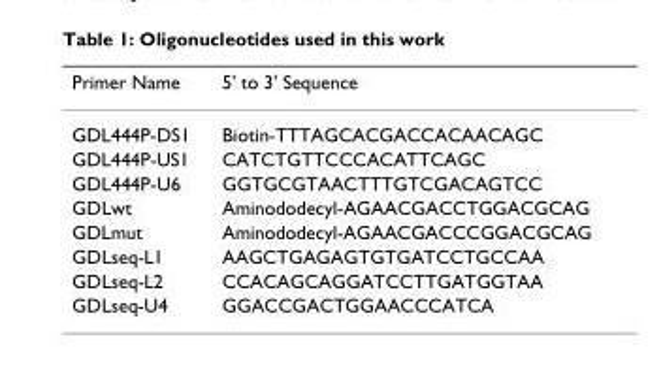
<table><thead><tr><td>Primer Name</td><td>5&#x27; to 3&#x27; Sequence</td></tr></thead><tbody><tr><td>GDL444P-DS1</td><td>Biotin-TTTAGCACGACCACAACAGC</td></tr><tr><td>GDL444P-US1</td><td>CATCTGTTCCCACATTCAGC</td></tr><tr><td>GDL444P-U6</td><td>GGTGCGTAACTTTGTCGACAGTCC</td></tr><tr><td>GDLwt</td><td>Aminododecyl-AGAACGACCTGGACGCAG</td></tr><tr><td>GDLmut</td><td>Aminododecyl-AGAACGACCCGGACGCAG</td></tr><tr><td>GDLseq-L1</td><td>AAGCTGAGAGTGTGATCCTGCCAA</td></tr><tr><td>GDLseq-L2</td><td>CCACAGCAGGATCCTTGATGGTAA</td></tr><tr><td>GDLseq-U4</td><td>GGACCGACTGGAACCCATCA</td></tr></tbody></table>